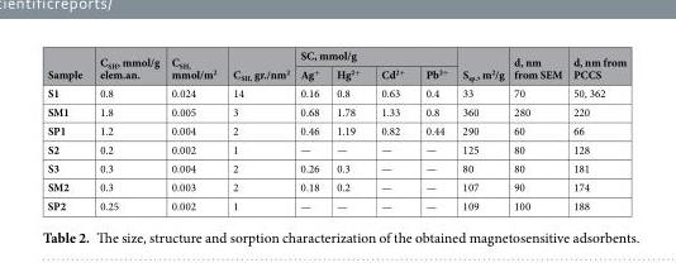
<table><thead><tr><td rowspan="2">Sample</td><td rowspan="2">C<sub>SH</sub>, mmol/g elem.an.</td><td rowspan="2">C<sub>SH,</sub> mmol/m<sup>2</sup></td><td rowspan="2">C<sub>SH,</sub> gr./nm<sup>2</sup></td><td colspan="4">SC, mmol/g</td><td rowspan="2">S<sub>sp.</sub>, m<sup>2</sup>/g</td><td rowspan="2">d, nm from SEM</td><td rowspan="2">d, nm from PCCS</td></tr><tr><td>Ag<sup>+</sup></td><td>Hg<sup>2+</sup></td><td>Cd<sup>2+</sup></td><td>Pb<sup>2+</sup></td></tr></thead><tbody><tr><td>S1</td><td>0.8</td><td>0.024</td><td>14</td><td>0.16</td><td>0.8</td><td>0.63</td><td>0.4</td><td>33</td><td>70</td><td>50, 362</td></tr><tr><td>SM1</td><td>1.8</td><td>0.005</td><td>3</td><td>0.68</td><td>1.78</td><td>1.33</td><td>0.8</td><td>360</td><td>280</td><td>220</td></tr><tr><td>SP1</td><td>1.2</td><td>0.004</td><td>2</td><td>0.46</td><td>1.19</td><td>0.82</td><td>0.44</td><td>290</td><td>60</td><td>66</td></tr><tr><td>S2</td><td>0.2</td><td>0.002</td><td>1</td><td>—</td><td>—</td><td>—</td><td>—</td><td>125</td><td>80</td><td>128</td></tr><tr><td>S3</td><td>0.3</td><td>0.004</td><td>2</td><td>0.26</td><td>0.3</td><td>—</td><td>—</td><td>80</td><td>80</td><td>181</td></tr><tr><td>SM2</td><td>0.3</td><td>0.003</td><td>2</td><td>0.18</td><td>0.2</td><td>—</td><td>—</td><td>107</td><td>90</td><td>174</td></tr><tr><td>SP2</td><td>0.25</td><td>0.002</td><td>1</td><td>—</td><td>—</td><td>—</td><td>—</td><td>109</td><td>100</td><td>188</td></tr></tbody></table>